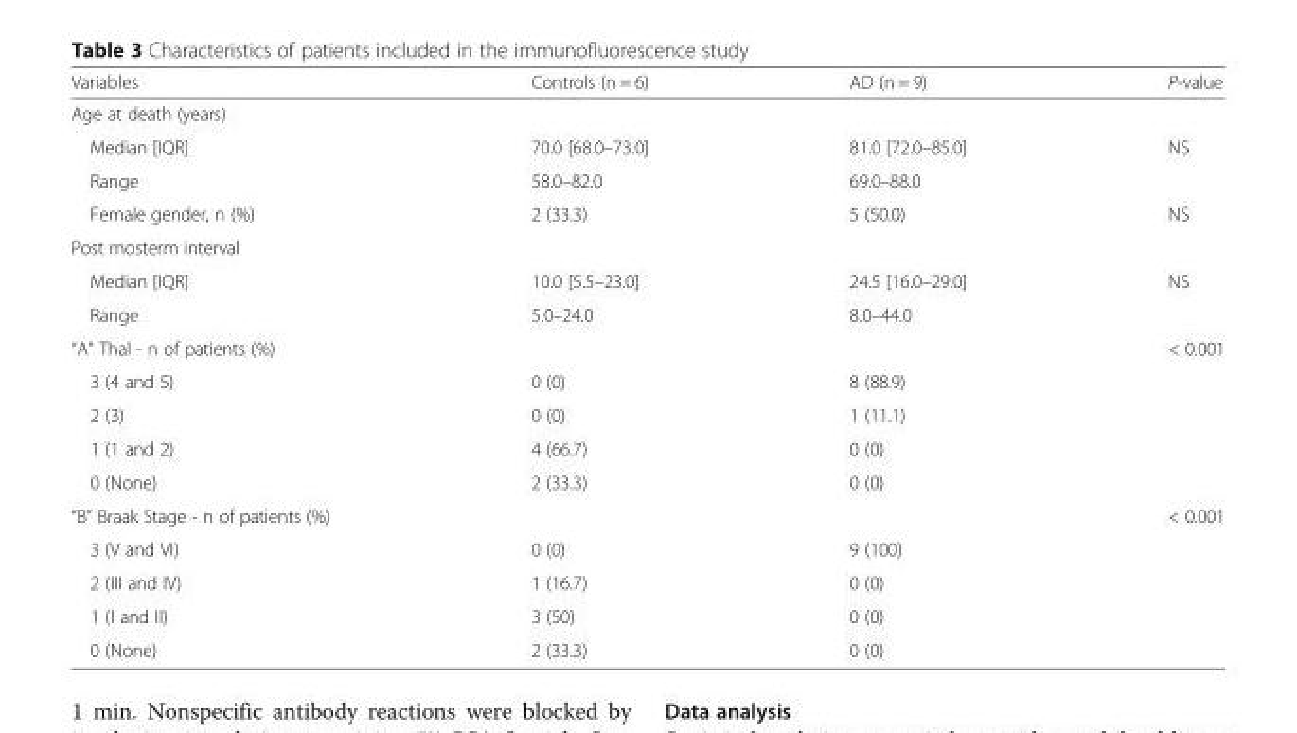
<table><thead><tr><td>Variables</td><td>Controls (n = 6)</td><td>AD (n = 9)</td><td>P-value</td></tr></thead><tbody><tr><td colspan="4">Age at death (years)</td></tr><tr><td>Median [IQR]</td><td>70.0 [68.0–73.0]</td><td>81.0 [72.0–85.0]</td><td>NS</td></tr><tr><td>Range</td><td>58.0–82.0</td><td>69.0–88.0</td><td></td></tr><tr><td>Female gender, n (%)</td><td>2 (33.3)</td><td>5 (50.0)</td><td>NS</td></tr><tr><td colspan="4">Post mosterm interval</td></tr><tr><td>Median [IQR]</td><td>10.0 [5.5–23.0]</td><td>24.5 [16.0–29.0]</td><td>NS</td></tr><tr><td>Range</td><td>5.0–24.0</td><td>8.0–44.0</td><td></td></tr><tr><td>“A” Thal - n of patients (%)</td><td></td><td></td><td>&lt; 0.001</td></tr><tr><td>3 (4 and 5)</td><td>0 (0)</td><td>8 (88.9)</td><td></td></tr><tr><td>2 (3)</td><td>0 (0)</td><td>1 (11.1)</td><td></td></tr><tr><td>1 (1 and 2)</td><td>4 (66.7)</td><td>0 (0)</td><td></td></tr><tr><td>0 (None)</td><td>2 (33.3)</td><td>0 (0)</td><td></td></tr><tr><td>“B” Braak Stage - n of patients (%)</td><td></td><td></td><td>&lt; 0.001</td></tr><tr><td>3 (V and VI)</td><td>0 (0)</td><td>9 (100)</td><td></td></tr><tr><td>2 (III and IV)</td><td>1 (16.7)</td><td>0 (0)</td><td></td></tr><tr><td>1 (I and II)</td><td>3 (50)</td><td>0 (0)</td><td></td></tr><tr><td>0 (None)</td><td>2 (33.3)</td><td>0 (0)</td><td></td></tr></tbody></table>